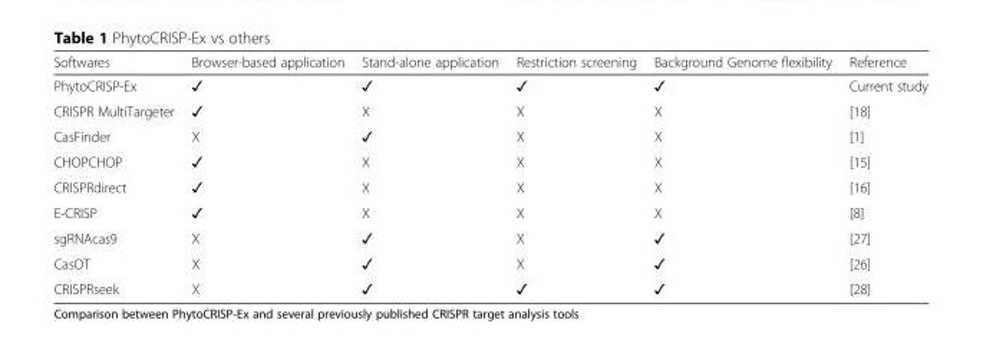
<table><thead><tr><td>Softwares</td><td>Browser-based application</td><td>Stand-alone application</td><td>Restriction screening</td><td>Background Genome flexibility</td><td>Reference</td></tr></thead><tbody><tr><td>PhytoCRISP-Ex</td><td>✓</td><td>✓</td><td>✓</td><td>✓</td><td>Current study</td></tr><tr><td>CRISPR MultiTargeter</td><td>✓</td><td>X</td><td>X</td><td>X</td><td>[18]</td></tr><tr><td>CasFinder</td><td>X</td><td>✓</td><td>X</td><td>X</td><td>[1]</td></tr><tr><td>CHOPCHOP</td><td>✓</td><td>X</td><td>X</td><td>X</td><td>[15]</td></tr><tr><td>CRISPRdirect</td><td>✓</td><td>X</td><td>X</td><td>X</td><td>[16]</td></tr><tr><td>E-CRISP</td><td>✓</td><td>X</td><td>X</td><td>X</td><td>[8]</td></tr><tr><td>sgRNAcas9</td><td>X</td><td>✓</td><td>X</td><td>✓</td><td>[27]</td></tr><tr><td>CasOT</td><td>X</td><td>✓</td><td>X</td><td>✓</td><td>[26]</td></tr><tr><td>CRISPRseek</td><td>X</td><td>✓</td><td>✓</td><td>✓</td><td>[28]</td></tr></tbody></table>